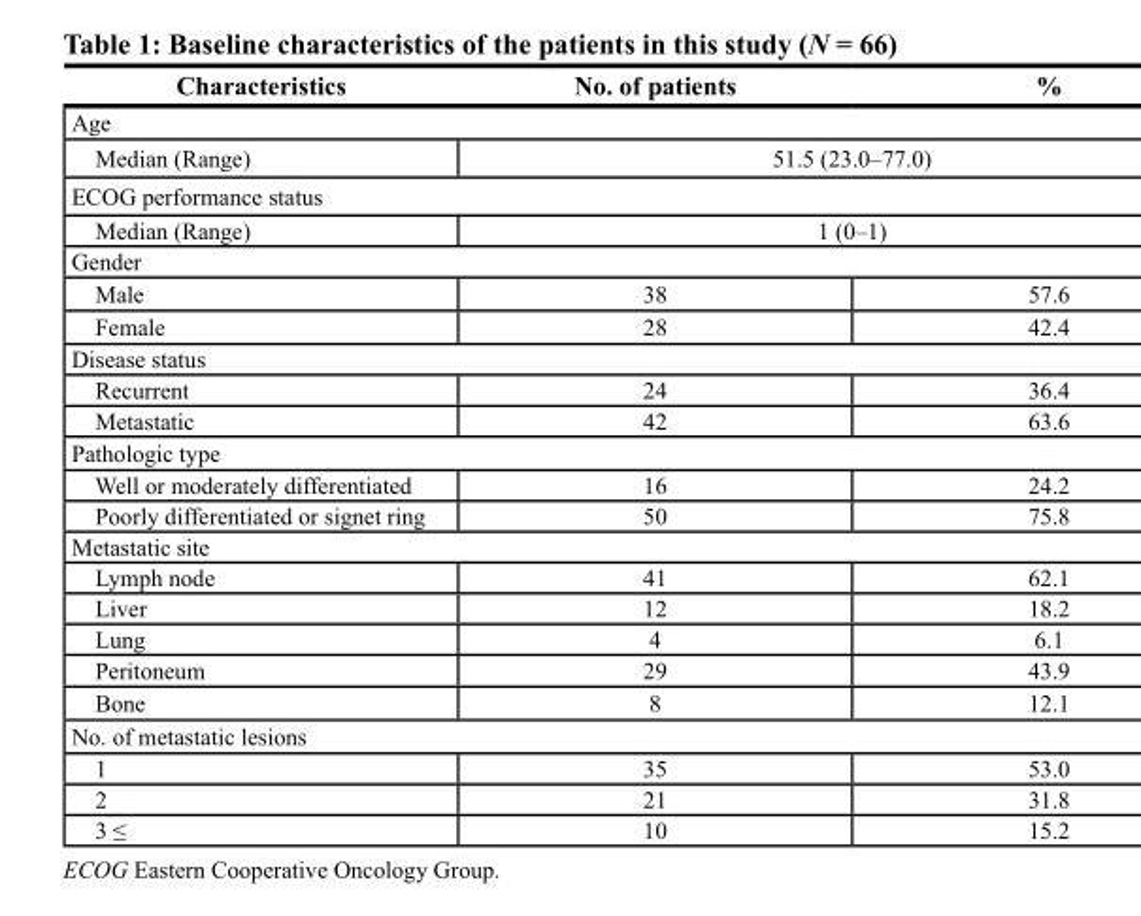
<table><thead><tr><td>characteristics</td><td>no. of patients</td><td>%</td></tr></thead><tbody><tr><td colspan="3">Age</td></tr><tr><td>Median (Range)</td><td colspan="2">51.5 (23.0–77.0)</td></tr><tr><td colspan="3">ECOG performance status</td></tr><tr><td>Median (Range)</td><td colspan="2">1 (0–1)</td></tr><tr><td colspan="3">Gender</td></tr><tr><td>Male</td><td>38</td><td>57.6</td></tr><tr><td>Female</td><td>28</td><td>42.4</td></tr><tr><td colspan="3">Disease status</td></tr><tr><td>Recurrent</td><td>24</td><td>36.4</td></tr><tr><td>Metastatic</td><td>42</td><td>63.6</td></tr><tr><td colspan="3">Pathologic type</td></tr><tr><td>Well or moderately differentiated</td><td>16</td><td>24.2</td></tr><tr><td>Poorly differentiated or signet ring</td><td>50</td><td>75.8</td></tr><tr><td colspan="3">Metastatic site</td></tr><tr><td>Lymph node</td><td>41</td><td>62.1</td></tr><tr><td>Liver</td><td>12</td><td>18.2</td></tr><tr><td>Lung</td><td>4</td><td>6.1</td></tr><tr><td>Peritoneum</td><td>29</td><td>43.9</td></tr><tr><td>Bone</td><td>8</td><td>12.1</td></tr><tr><td colspan="3">No. of metastatic lesions</td></tr><tr><td>1</td><td>35</td><td>53.0</td></tr><tr><td>2</td><td>21</td><td>31.8</td></tr><tr><td>3 ≤</td><td>10</td><td>15.2</td></tr></tbody></table>